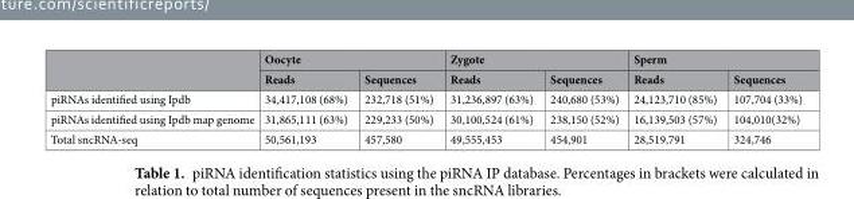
<table><thead><tr><td rowspan="2"></td><td colspan="2">Oocyte</td><td colspan="2">Zygote</td><td colspan="2">Sperm</td></tr><tr><td>Reads</td><td>Sequences</td><td>Reads</td><td>Sequences</td><td>Reads</td><td>Sequences</td></tr></thead><tbody><tr><td>piRNAs identified using Ipdb</td><td>34,417,108 (68%)</td><td>232,718 (51%)</td><td>31,236,897 (63%)</td><td>240,680 (53%)</td><td>24,123,710 (85%)</td><td>107,704 (33%)</td></tr><tr><td>piRNAs identified using Ipdb map genome</td><td>31,865,111 (63%)</td><td>229,233 (50%)</td><td>30,100,524 (61%)</td><td>238,150 (52%)</td><td>16,139,503 (57%)</td><td>104,010(32%)</td></tr><tr><td>Total sncRNA-seq</td><td>50,561,193</td><td>457,580</td><td>49,555,453</td><td>454,901</td><td>28,519,791</td><td>324,746</td></tr></tbody></table>